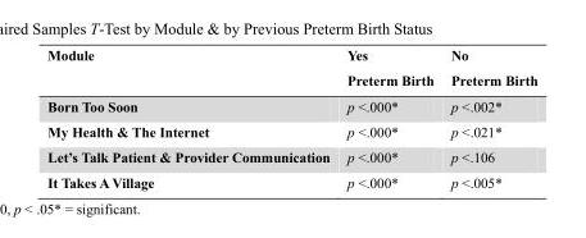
<table><thead><tr><td>Module</td><td>Yes Preterm Birth</td><td>No Preterm Birth</td></tr></thead><tbody><tr><td>Born Too Soon</td><td>p &lt;.000*</td><td>p &lt;.002*</td></tr><tr><td>My Health &amp; The Internet</td><td>p &lt;.000*</td><td>p &lt;.021*</td></tr><tr><td>Let’s Talk Patient &amp; Provider Communication</td><td>p &lt;.000*</td><td>p &lt;.106</td></tr><tr><td>It Takes A Village</td><td>p &lt;.000*</td><td>p &lt;.005*</td></tr></tbody></table>